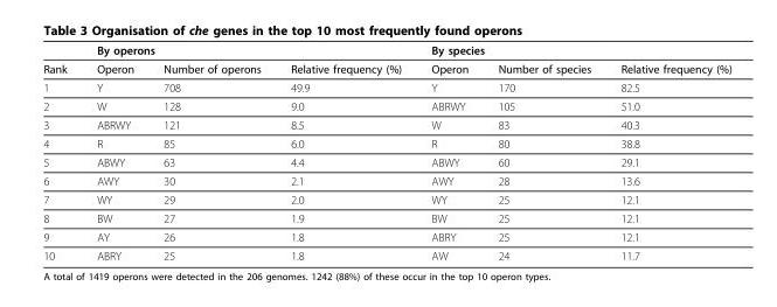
<table><thead><tr><td rowspan="2">Rank</td><td colspan="3">By operons</td><td colspan="3">By species</td></tr><tr><td>Operon</td><td>Number of operons</td><td>Relative frequency (%)</td><td>Operon</td><td>Number of species</td><td>Relative frequency (%)</td></tr></thead><tbody><tr><td>1</td><td>Y</td><td>708</td><td>49.9</td><td>Y</td><td>170</td><td>82.5</td></tr><tr><td>2</td><td>W</td><td>128</td><td>9.0</td><td>ABRWY</td><td>105</td><td>51.0</td></tr><tr><td>3</td><td>ABRWY</td><td>121</td><td>8.5</td><td>W</td><td>83</td><td>40.3</td></tr><tr><td>4</td><td>R</td><td>85</td><td>6.0</td><td>R</td><td>80</td><td>38.8</td></tr><tr><td>5</td><td>ABWY</td><td>63</td><td>4.4</td><td>ABWY</td><td>60</td><td>29.1</td></tr><tr><td>6</td><td>AWY</td><td>30</td><td>2.1</td><td>AWY</td><td>28</td><td>13.6</td></tr><tr><td>7</td><td>WY</td><td>29</td><td>2.0</td><td>WY</td><td>25</td><td>12.1</td></tr><tr><td>8</td><td>BW</td><td>27</td><td>1.9</td><td>BW</td><td>25</td><td>12.1</td></tr><tr><td>9</td><td>AY</td><td>26</td><td>1.8</td><td>ABRY</td><td>25</td><td>12.1</td></tr><tr><td>10</td><td>ABRY</td><td>25</td><td>1.8</td><td>AW</td><td>24</td><td>11.7</td></tr></tbody></table>